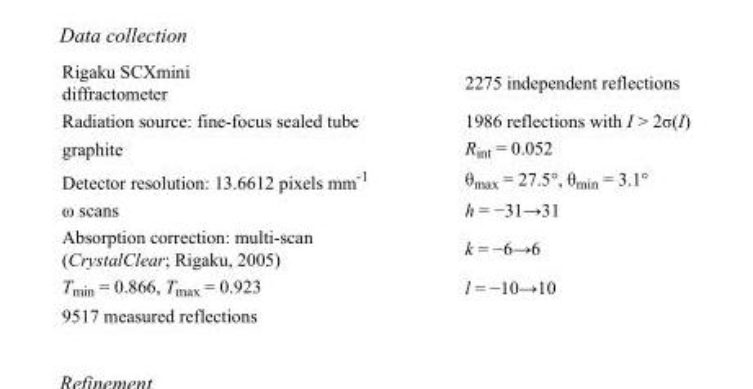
<table><tbody><tr><td>Rigaku SCXmini diffractometer</td><td>2275 independent reflections</td></tr><tr><td>Radiation source: fine-focus sealed tube</td><td>1986 reflections with I &gt; 2σ(I)</td></tr><tr><td>graphite</td><td>R<sub>int</sub> = 0.052</td></tr><tr><td>Detector resolution: 13.6612 pixels mm<sup>-1</sup></td><td>θ<sub>max</sub> = 27.5°, θ<sub>min</sub> = 3.1°</td></tr><tr><td>ω scans</td><td>h = −31→31</td></tr><tr><td>Absorption correction: multi-scan (CrystalClear; Rigaku, 2005)</td><td>k = −6→6</td></tr><tr><td>T<sub>min</sub> = 0.866, T<sub>max</sub> = 0.923</td><td>l = −10→10</td></tr><tr><td>9517 measured reflections</td><td></td></tr></tbody></table>